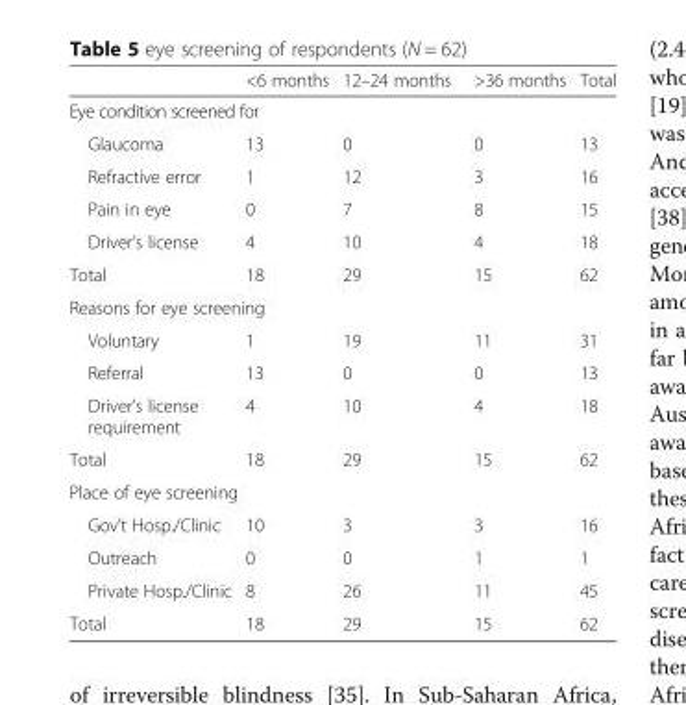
<table><thead><tr><td></td><td>&lt;6 months</td><td>12–24 months</td><td>&gt;36 months</td><td>Total</td></tr></thead><tbody><tr><td colspan="5">Eye condition screened for</td></tr><tr><td>Glaucoma</td><td>13</td><td>0</td><td>0</td><td>13</td></tr><tr><td>Refractive error</td><td>1</td><td>12</td><td>3</td><td>16</td></tr><tr><td>Pain in eye</td><td>0</td><td>7</td><td>8</td><td>15</td></tr><tr><td>Driver’s license</td><td>4</td><td>10</td><td>4</td><td>18</td></tr><tr><td>Total</td><td>18</td><td>29</td><td>15</td><td>62</td></tr><tr><td colspan="5">Reasons for eye screening</td></tr><tr><td>Voluntary</td><td>1</td><td>19</td><td>11</td><td>31</td></tr><tr><td>Referral</td><td>13</td><td>0</td><td>0</td><td>13</td></tr><tr><td>Driver’s license requirement</td><td>4</td><td>10</td><td>4</td><td>18</td></tr><tr><td>Total</td><td>18</td><td>29</td><td>15</td><td>62</td></tr><tr><td colspan="5">Place of eye screening</td></tr><tr><td>Gov’t Hosp./Clinic</td><td>10</td><td>3</td><td>3</td><td>16</td></tr><tr><td>Outreach</td><td>0</td><td>0</td><td>1</td><td>1</td></tr><tr><td>Private Hosp./Clinic</td><td>8</td><td>26</td><td>11</td><td>45</td></tr><tr><td>Total</td><td>18</td><td>29</td><td>15</td><td>62</td></tr></tbody></table>